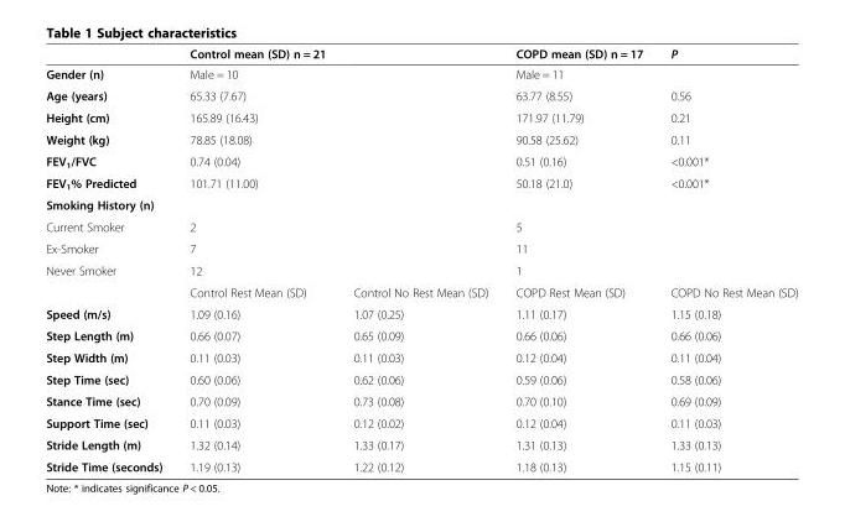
<table><thead><tr><td></td><td>Control mean (SD) n = 21</td><td></td><td>COPD mean (SD) n = 17</td><td>P</td></tr></thead><tbody><tr><td>Gender (n)</td><td>Male = 10</td><td></td><td>Male = 11</td><td></td></tr><tr><td>Age (years)</td><td>65.33 (7.67)</td><td></td><td>63.77 (8.55)</td><td>0.56</td></tr><tr><td>Height (cm)</td><td>165.89 (16.43)</td><td></td><td>171.97 (11.79)</td><td>0.21</td></tr><tr><td>Weight (kg)</td><td>78.85 (18.08)</td><td></td><td>90.58 (25.62)</td><td>0.11</td></tr><tr><td>FEV<sub>1</sub>/FVC</td><td>0.74 (0.04)</td><td></td><td>0.51 (0.16)</td><td>&lt;0.001*</td></tr><tr><td>FEV<sub>1</sub>% Predicted</td><td>101.71 (11.00)</td><td></td><td>50.18 (21.0)</td><td>&lt;0.001*</td></tr><tr><td colspan="5">Smoking History (n)</td></tr><tr><td>Current Smoker</td><td>2</td><td></td><td>5</td><td></td></tr><tr><td>Ex-Smoker</td><td>7</td><td></td><td>11</td><td></td></tr><tr><td rowspan="2">Never Smoker</td><td>12</td><td></td><td>1</td><td></td></tr><tr><td>Control Rest Mean (SD)</td><td>Control No Rest Mean (SD)</td><td>COPD Rest Mean (SD)</td><td>COPD No Rest Mean (SD)</td></tr><tr><td>Speed (m/s)</td><td>1.09 (0.16)</td><td>1.07 (0.25)</td><td>1.11 (0.17)</td><td>1.15 (0.18)</td></tr><tr><td>Step Length (m)</td><td>0.66 (0.07)</td><td>0.65 (0.09)</td><td>0.66 (0.06)</td><td>0.66 (0.06)</td></tr><tr><td>Step Width (m)</td><td>0.11 (0.03)</td><td>0.11 (0.03)</td><td>0.12 (0.04)</td><td>0.11 (0.04)</td></tr><tr><td>Step Time (sec)</td><td>0.60 (0.06)</td><td>0.62 (0.06)</td><td>0.59 (0.06)</td><td>0.58 (0.06)</td></tr><tr><td>Stance Time (sec)</td><td>0.70 (0.09)</td><td>0.73 (0.08)</td><td>0.70 (0.10)</td><td>0.69 (0.09)</td></tr><tr><td>Support Time (sec)</td><td>0.11 (0.03)</td><td>0.12 (0.02)</td><td>0.12 (0.04)</td><td>0.11 (0.03)</td></tr><tr><td>Stride Length (m)</td><td>1.32 (0.14)</td><td>1.33 (0.17)</td><td>1.31 (0.13)</td><td>1.33 (0.13)</td></tr><tr><td>Stride Time (seconds)</td><td>1.19 (0.13)</td><td>1.22 (0.12)</td><td>1.18 (0.13)</td><td>1.15 (0.11)</td></tr></tbody></table>